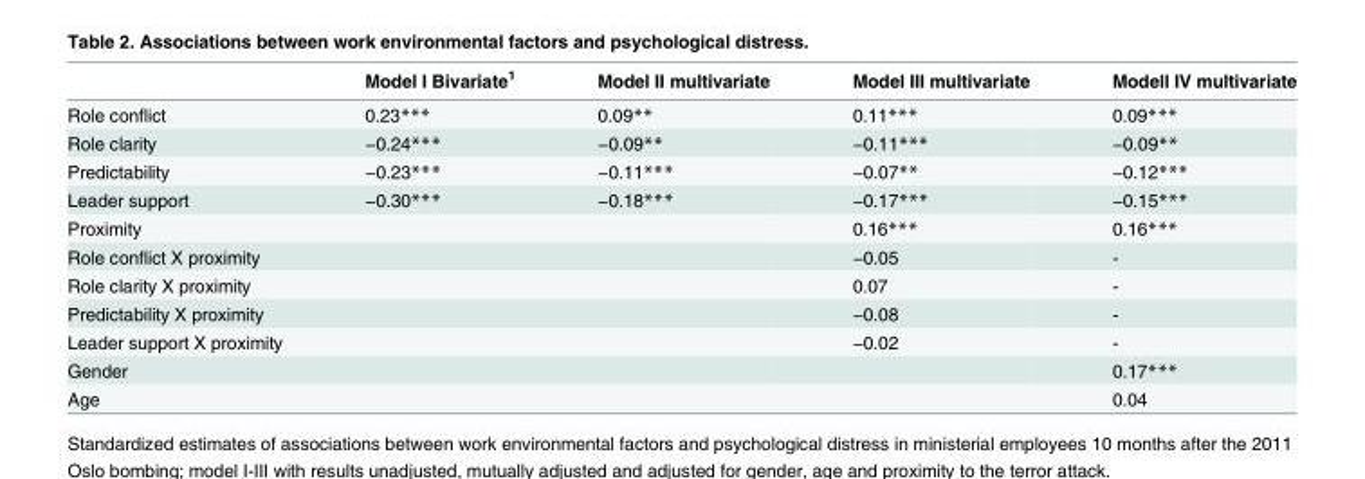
<table><thead><tr><td></td><td>Model I Bivariate<sup>1</sup></td><td>Model II multivariate</td><td>Model III multivariate</td><td>Modell IV multivariate</td></tr></thead><tbody><tr><td>Role conflict</td><td>0.23***</td><td>0.09**</td><td>0.11***</td><td>0.09***</td></tr><tr><td>Role clarity</td><td>−0.24***</td><td>−0.09**</td><td>−0.11***</td><td>−0.09**</td></tr><tr><td>Predictability</td><td>−0.23***</td><td>−0.11***</td><td>−0.07**</td><td>−0.12***</td></tr><tr><td>Leader support</td><td>−0.30***</td><td>−0.18***</td><td>−0.17***</td><td>−0.15***</td></tr><tr><td>Proximity</td><td></td><td></td><td>0.16***</td><td>0.16***</td></tr><tr><td>Role conflict X proximity</td><td></td><td></td><td>−0.05</td><td>-</td></tr><tr><td>Role clarity X proximity</td><td></td><td></td><td>0.07</td><td>-</td></tr><tr><td>Predictability X proximity</td><td></td><td></td><td>−0.08</td><td>-</td></tr><tr><td>Leader support X proximity</td><td></td><td></td><td>−0.02</td><td>-</td></tr><tr><td>Gender</td><td></td><td></td><td></td><td>0.17***</td></tr><tr><td>Age</td><td></td><td></td><td></td><td>0.04</td></tr></tbody></table>